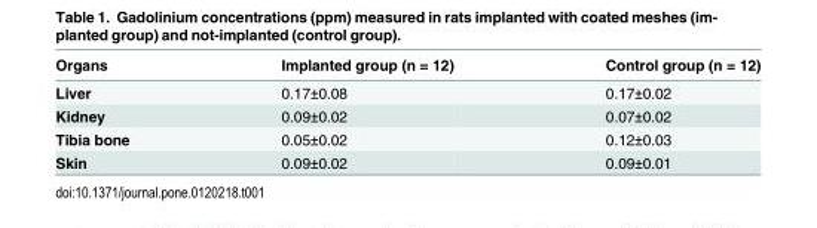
<table><thead><tr><td>Organs</td><td>Implanted group (n = 12)</td><td>Control group (n = 12)</td></tr></thead><tbody><tr><td>Liver</td><td>0.17±0.08</td><td>0.17±0.02</td></tr><tr><td>Kidney</td><td>0.09±0.02</td><td>0.07±0.02</td></tr><tr><td>Tibia bone</td><td>0.05±0.02</td><td>0.12±0.03</td></tr><tr><td>Skin</td><td>0.09±0.02</td><td>0.09±0.01</td></tr></tbody></table>